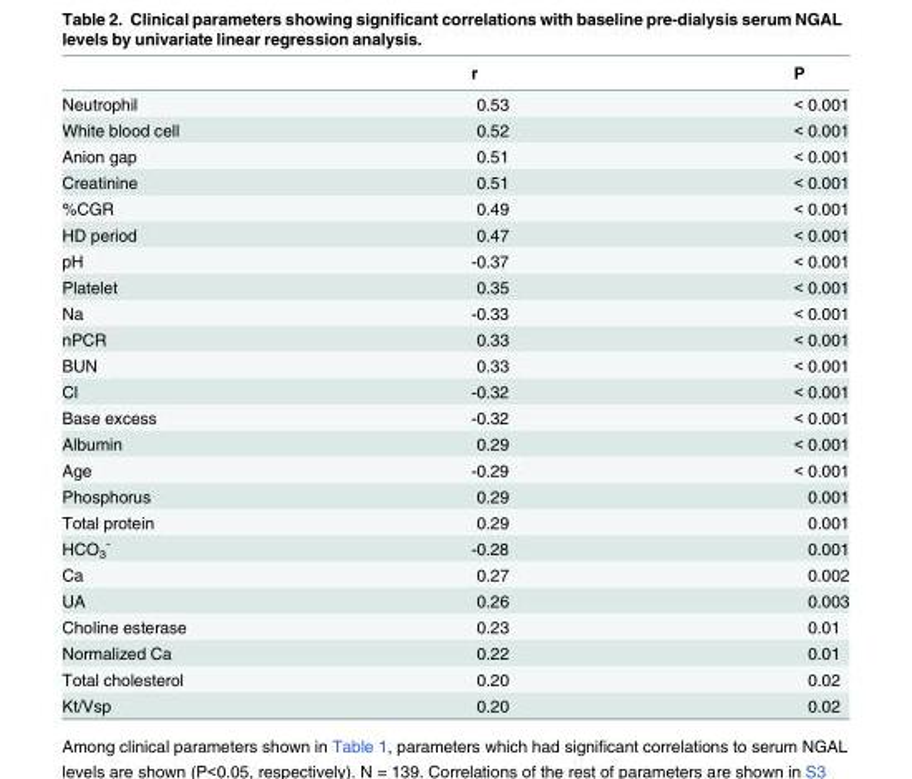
<table><thead><tr><td></td><td>r</td><td>P</td></tr></thead><tbody><tr><td>Neutrophil</td><td>0.53</td><td>&lt; 0.001</td></tr><tr><td>White blood cell</td><td>0.52</td><td>&lt; 0.001</td></tr><tr><td>Anion gap</td><td>0.51</td><td>&lt; 0.001</td></tr><tr><td>Creatinine</td><td>0.51</td><td>&lt; 0.001</td></tr><tr><td>%CGR</td><td>0.49</td><td>&lt; 0.001</td></tr><tr><td>HD period</td><td>0.47</td><td>&lt; 0.001</td></tr><tr><td>pH</td><td>-0.37</td><td>&lt; 0.001</td></tr><tr><td>Platelet</td><td>0.35</td><td>&lt; 0.001</td></tr><tr><td>Na</td><td>-0.33</td><td>&lt; 0.001</td></tr><tr><td>nPCR</td><td>0.33</td><td>&lt; 0.001</td></tr><tr><td>BUN</td><td>0.33</td><td>&lt; 0.001</td></tr><tr><td>Cl</td><td>-0.32</td><td>&lt; 0.001</td></tr><tr><td>Base excess</td><td>-0.32</td><td>&lt; 0.001</td></tr><tr><td>Albumin</td><td>0.29</td><td>&lt; 0.001</td></tr><tr><td>Age</td><td>-0.29</td><td>&lt; 0.001</td></tr><tr><td>Phosphorus</td><td>0.29</td><td>0.001</td></tr><tr><td>Total protein</td><td>0.29</td><td>0.001</td></tr><tr><td>HCO<sub>3</sub> <sup>-</sup></td><td>-0.28</td><td>0.001</td></tr><tr><td>Ca</td><td>0.27</td><td>0.002</td></tr><tr><td>UA</td><td>0.26</td><td>0.003</td></tr><tr><td>Choline esterase</td><td>0.23</td><td>0.01</td></tr><tr><td>Normalized Ca</td><td>0.22</td><td>0.01</td></tr><tr><td>Total cholesterol</td><td>0.20</td><td>0.02</td></tr><tr><td>Kt/Vsp</td><td>0.20</td><td>0.02</td></tr></tbody></table>